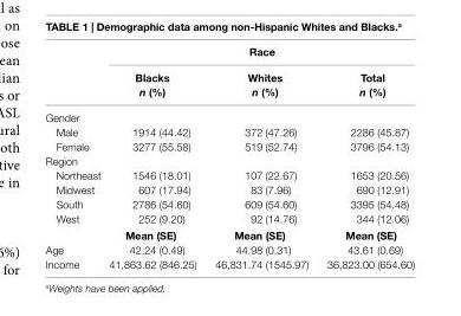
<table><thead><tr><td rowspan="2"></td><td colspan="3">race</td></tr><tr><td>Blacks n (%)</td><td>Whites n (%)</td><td>Total n (%)</td></tr></thead><tbody><tr><td colspan="4">Gender</td></tr><tr><td>Male</td><td>1914 (44.42)</td><td>372 (47.26)</td><td>2286 (45.87)</td></tr><tr><td>Female</td><td>3277 (55.58)</td><td>519 (52.74)</td><td>3796 (54.13)</td></tr><tr><td colspan="4">Region</td></tr><tr><td>Northeast</td><td>1546 (18.01)</td><td>107 (22.67)</td><td>1653 (20.56)</td></tr><tr><td>Midwest</td><td>607 (17.94)</td><td>83 (7.96)</td><td>690 (12.91)</td></tr><tr><td>South</td><td>2786 (54.60)</td><td>609 (54.60)</td><td>3395 (54.48)</td></tr><tr><td rowspan="2">West</td><td>252 (9.20)</td><td>92 (14.76)</td><td>344 (12.06)</td></tr><tr><td>Mean (se)</td><td>Mean (se)</td><td>Mean (se)</td></tr><tr><td>Age</td><td>42.24 (0.49)</td><td>44.98 (0.31)</td><td>43.61 (0.69)</td></tr><tr><td>Income</td><td>41,863.62 (846.25)</td><td>46,831.74 (1545.97)</td><td>36,823.00 (654.60)</td></tr></tbody></table>